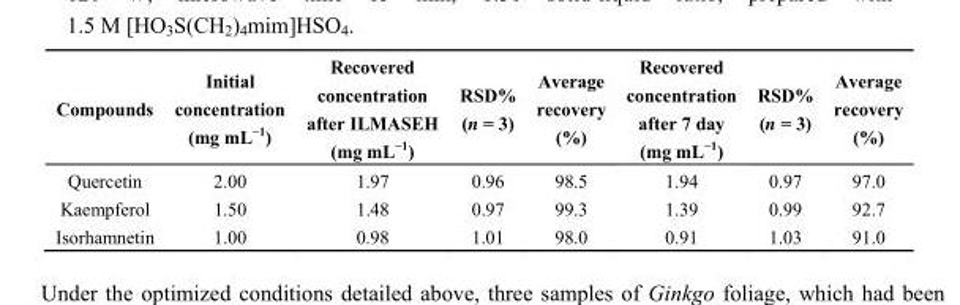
<table><thead><tr><td>Compounds</td><td>Initial concentration (mg mL<sup>−1</sup>)</td><td>Recovered concentration after ILMASEH (mg mL<sup>−1</sup>)</td><td>RSD% (n = 3)</td><td>Average recovery (%)</td><td>Recovered concentration after 7 day (mg mL<sup>−1</sup>)</td><td>RSD% (n = 3)</td><td>Average recovery (%)</td></tr></thead><tbody><tr><td>Quercetin</td><td>2.00</td><td>1.97</td><td>0.96</td><td>98.5</td><td>1.94</td><td>0.97</td><td>97.0</td></tr><tr><td>Kaempferol</td><td>1.50</td><td>1.48</td><td>0.97</td><td>99.3</td><td>1.39</td><td>0.99</td><td>92.7</td></tr><tr><td>Isorhamnetin</td><td>1.00</td><td>0.98</td><td>1.01</td><td>98.0</td><td>0.91</td><td>1.03</td><td>91.0</td></tr></tbody></table>